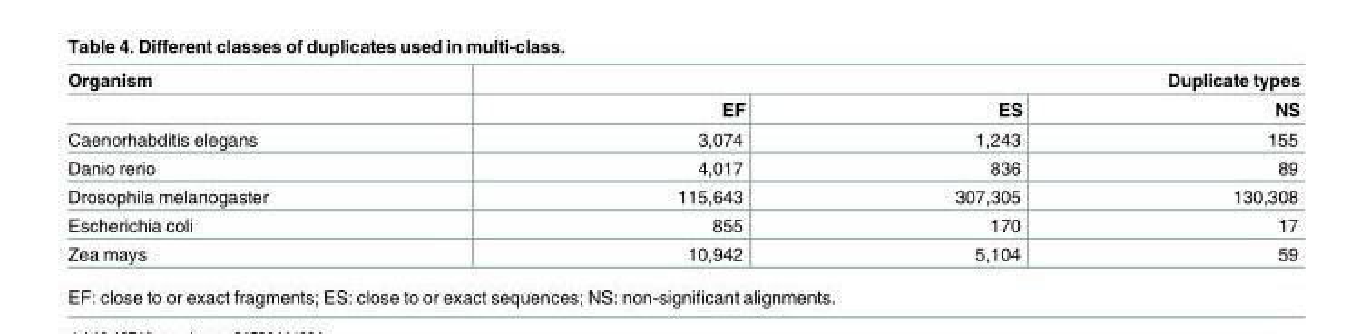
<table><thead><tr><td rowspan="2">Organism</td><td colspan="3">Duplicate types</td></tr><tr><td>EF</td><td>ES</td><td>NS</td></tr></thead><tbody><tr><td>Caenorhabditis elegans</td><td>3,074</td><td>1,243</td><td>155</td></tr><tr><td>Danio rerio</td><td>4,017</td><td>836</td><td>89</td></tr><tr><td>Drosophila melanogaster</td><td>115,643</td><td>307,305</td><td>130,308</td></tr><tr><td>Escherichia coli</td><td>855</td><td>170</td><td>17</td></tr><tr><td>Zea mays</td><td>10,942</td><td>5,104</td><td>59</td></tr></tbody></table>